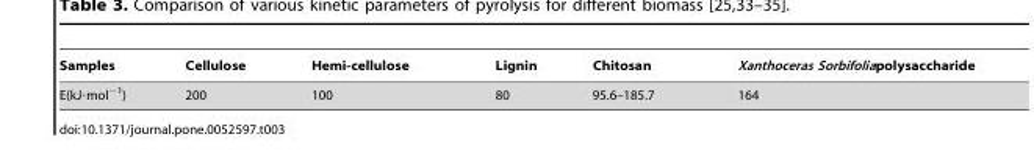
<table><thead><tr><td>Samples</td><td>Cellulose</td><td>Hemi-cellulose</td><td>Lignin</td><td>Chitosan</td><td>Xanthoceras Sorbifoliapolysaccharide</td></tr></thead><tbody><tr><td>E(kJ·mol<sup>−1</sup>)</td><td>200</td><td>100</td><td>80</td><td>95.6–185.7</td><td>164</td></tr></tbody></table>